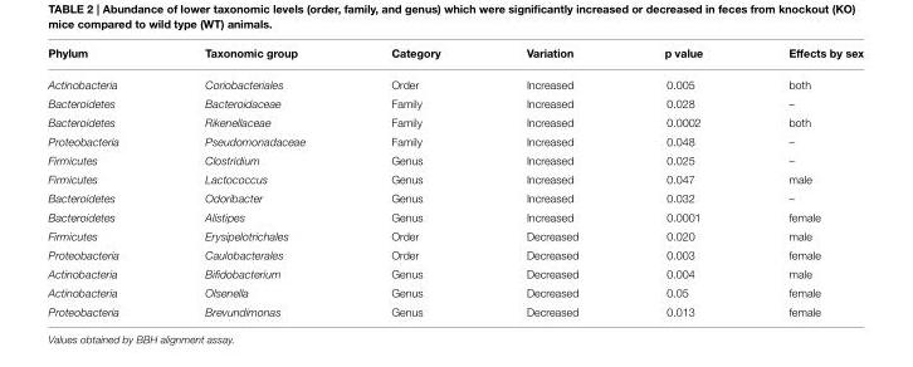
<table><thead><tr><td>Phylum</td><td>Taxonomic group</td><td>Category</td><td>Variation</td><td>p value</td><td>Effects by sex</td></tr></thead><tbody><tr><td>Actinobacteria</td><td>Coriobacteriales</td><td>Order</td><td>Increased</td><td>0.005</td><td>both</td></tr><tr><td>Bacteroidetes</td><td>Bacteroidaceae</td><td>Family</td><td>Increased</td><td>0.028</td><td>–</td></tr><tr><td>Bacteroidetes</td><td>Rikenellaceae</td><td>Family</td><td>Increased</td><td>0.0002</td><td>both</td></tr><tr><td>Proteobacteria</td><td>Pseudomonadaceae</td><td>Family</td><td>Increased</td><td>0.048</td><td>–</td></tr><tr><td>Firmicutes</td><td>Clostridium</td><td>Genus</td><td>Increased</td><td>0.025</td><td>–</td></tr><tr><td>Firmicutes</td><td>Lactococcus</td><td>Genus</td><td>Increased</td><td>0.047</td><td>male</td></tr><tr><td>Bacteroidetes</td><td>Odoribacter</td><td>Genus</td><td>Increased</td><td>0.032</td><td>–</td></tr><tr><td>Bacteroidetes</td><td>Alistipes</td><td>Genus</td><td>Increased</td><td>0.0001</td><td>female</td></tr><tr><td>Firmicutes</td><td>Erysipelotrichales</td><td>Order</td><td>Decreased</td><td>0.020</td><td>male</td></tr><tr><td>Proteobacteria</td><td>Caulobacterales</td><td>Order</td><td>Decreased</td><td>0.003</td><td>female</td></tr><tr><td>Actinobacteria</td><td>Bifidobacterium</td><td>Genus</td><td>Decreased</td><td>0.004</td><td>male</td></tr><tr><td>Actinobacteria</td><td>Olsenella</td><td>Genus</td><td>Decreased</td><td>0.05</td><td>female</td></tr><tr><td>Proteobacteria</td><td>Brevundimonas</td><td>Genus</td><td>Decreased</td><td>0.013</td><td>female</td></tr></tbody></table>